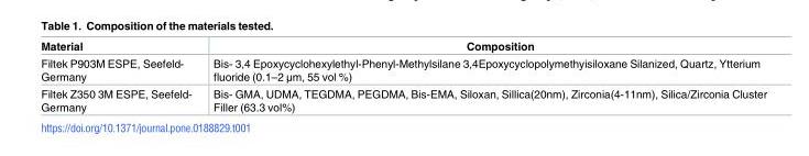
<table><thead><tr><td>Material</td><td>Composition</td></tr></thead><tbody><tr><td>Filtek P903M ESPE, Seefeld- Germany</td><td>Bis- 3,4 Epoxycyclohexylethyl-Phenyl-Methylsilane 3,4Epoxycyclopolymethyisiloxane Silanized, Quartz, Ytterium fluoride (0.1–2 μm, 55 vol %)</td></tr><tr><td>Filtek Z350 3M ESPE, Seefeld- Germany</td><td>Bis- GMA, UDMA, TEGDMA, PEGDMA, Bis-EMA, Siloxan, Sillica(20nm), Zirconia(4-11nm), Silica/Zirconia Cluster Filler (63.3 vol%)</td></tr></tbody></table>